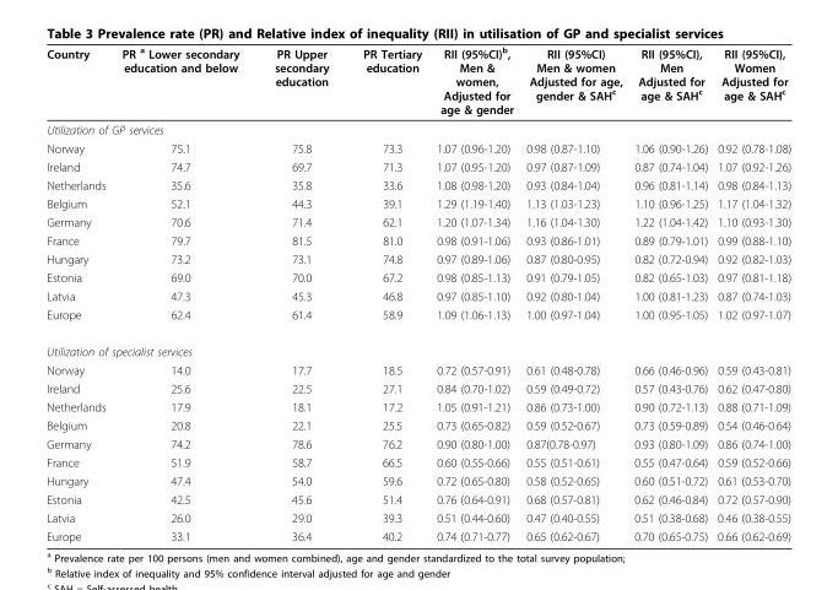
<table><thead><tr><td>Country</td><td>PR <sup>a</sup> Lower secondary education and below</td><td>PR Upper secondary education</td><td>PR Tertiary education</td><td>RII (95%CI)<sup>b</sup>, Men &amp; women, Adjusted for age &amp; gender</td><td>RII (95%CI) Men &amp; women Adjusted for age, gender &amp; SAH<sup>c</sup></td><td>RII (95%CI), Men Adjusted for age &amp; SAH<sup>c</sup></td><td>RII (95%CI), Women Adjusted for age &amp; SAH<sup>c</sup></td></tr></thead><tbody><tr><td colspan="8">Utilization of GP services</td></tr><tr><td>Norway</td><td>75.1</td><td>75.8</td><td>73.3</td><td>1.07 (0.96-1.20)</td><td>0.98 (0.87-1.10)</td><td>1.06 (0.90-1.26)</td><td>0.92 (0.78-1.08)</td></tr><tr><td>Ireland</td><td>74.7</td><td>69.7</td><td>71.3</td><td>1.07 (0.95-1.20)</td><td>0.97 (0.87-1.09)</td><td>0.87 (0.74-1.04)</td><td>1.07 (0.92-1.26)</td></tr><tr><td>Netherlands</td><td>35.6</td><td>35.8</td><td>33.6</td><td>1.08 (0.98-1.20)</td><td>0.93 (0.84-1.04)</td><td>0.96 (0.81-1.14)</td><td>0.98 (0.84-1.13)</td></tr><tr><td>Belgium</td><td>52.1</td><td>44.3</td><td>39.1</td><td>1.29 (1.19-1.40)</td><td>1.13 (1.03-1.23)</td><td>1.10 (0.96-1.25)</td><td>1.17 (1.04-1.32)</td></tr><tr><td>Germany</td><td>70.6</td><td>71.4</td><td>62.1</td><td>1.20 (1.07-1.34)</td><td>1.16 (1.04-1.30)</td><td>1.22 (1.04-1.42)</td><td>1.10 (0.93-1.30)</td></tr><tr><td>France</td><td>79.7</td><td>81.5</td><td>81.0</td><td>0.98 (0.91-1.06)</td><td>0.93 (0.86-1.01)</td><td>0.89 (0.79-1.01)</td><td>0.99 (0.88-1.10)</td></tr><tr><td>Hungary</td><td>73.2</td><td>73.1</td><td>74.8</td><td>0.97 (0.89-1.06)</td><td>0.87 (0.80-0.95)</td><td>0.82 (0.72-0.94)</td><td>0.92 (0.82-1.03)</td></tr><tr><td>Estonia</td><td>69.0</td><td>70.0</td><td>67.2</td><td>0.98 (0.85-1.13)</td><td>0.91 (0.79-1.05)</td><td>0.82 (0.65-1.03)</td><td>0.97 (0.81-1.18)</td></tr><tr><td>Latvia</td><td>47.3</td><td>45.3</td><td>46.8</td><td>0.97 (0.85-1.10)</td><td>0.92 (0.80-1.04)</td><td>1.00 (0.81-1.23)</td><td>0.87 (0.74-1.03)</td></tr><tr><td>Europe</td><td>62.4</td><td>61.4</td><td>58.9</td><td>1.09 (1.06-1.13)</td><td>1.00 (0.97-1.04)</td><td>1.00 (0.95-1.05)</td><td>1.02 (0.97-1.07)</td></tr><tr><td colspan="8">Utilization of specialist services</td></tr><tr><td>Norway</td><td>14.0</td><td>17.7</td><td>18.5</td><td>0.72 (0.57-0.91)</td><td>0.61 (0.48-0.78)</td><td>0.66 (0.46-0.96)</td><td>0.59 (0.43-0.81)</td></tr><tr><td>Ireland</td><td>25.6</td><td>22.5</td><td>27.1</td><td>0.84 (0.70-1.02)</td><td>0.59 (0.49-0.72)</td><td>0.57 (0.43-0.76)</td><td>0.62 (0.47-0.80)</td></tr><tr><td>Netherlands</td><td>17.9</td><td>18.1</td><td>17.2</td><td>1.05 (0.91-1.21)</td><td>0.86 (0.73-1.00)</td><td>0.90 (0.72-1.13)</td><td>0.88 (0.71-1.09)</td></tr><tr><td>Belgium</td><td>20.8</td><td>22.1</td><td>25.5</td><td>0.73 (0.65-0.82)</td><td>0.59 (0.52-0.67)</td><td>0.73 (0.59-0.89)</td><td>0.54 (0.46-0.64)</td></tr><tr><td>Germany</td><td>74.2</td><td>78.6</td><td>76.2</td><td>0.90 (0.80-1.00)</td><td>0.87(0.78-0.97)</td><td>0.93 (0.80-1.09)</td><td>0.86 (0.74-1.00)</td></tr><tr><td>France</td><td>51.9</td><td>58.7</td><td>66.5</td><td>0.60 (0.55-0.66)</td><td>0.55 (0.51-0.61)</td><td>0.55 (0.47-0.64)</td><td>0.59 (0.52-0.66)</td></tr><tr><td>Hungary</td><td>47.4</td><td>54.0</td><td>59.6</td><td>0.72 (0.65-0.80)</td><td>0.58 (0.52-0.65)</td><td>0.60 (0.51-0.72)</td><td>0.61 (0.53-0.70)</td></tr><tr><td>Estonia</td><td>42.5</td><td>45.6</td><td>51.4</td><td>0.76 (0.64-0.91)</td><td>0.68 (0.57-0.81)</td><td>0.62 (0.46-0.84)</td><td>0.72 (0.57-0.90)</td></tr><tr><td>Latvia</td><td>26.0</td><td>29.0</td><td>39.3</td><td>0.51 (0.44-0.60)</td><td>0.47 (0.40-0.55)</td><td>0.51 (0.38-0.68)</td><td>0.46 (0.38-0.55)</td></tr><tr><td>Europe</td><td>33.1</td><td>36.4</td><td>40.2</td><td>0.74 (0.71-0.77)</td><td>0.65 (0.62-0.67)</td><td>0.70 (0.65-0.75)</td><td>0.66 (0.62-0.69)</td></tr></tbody></table>